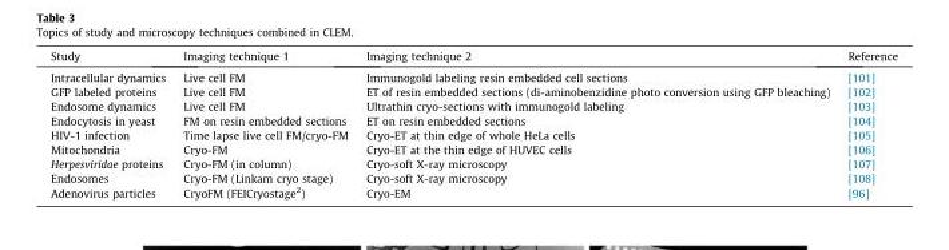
<table><thead><tr><td>Study</td><td>Imaging technique 1</td><td>Imaging technique 2</td><td>Reference</td></tr></thead><tbody><tr><td>Intracellular dynamics</td><td>Live cell FM</td><td>Immunogold labeling resin embedded cell sections</td><td>[101]</td></tr><tr><td>GFP labeled proteins</td><td>Live cell FM</td><td>ET of resin embedded sections (di-aminobenzidine photo conversion using GFP bleaching)</td><td>[102]</td></tr><tr><td>Endosome dynamics</td><td>Live cell FM</td><td>Ultrathin cryo-sections with immunogold labeling</td><td>[103]</td></tr><tr><td>Endocytosis in yeast</td><td>FM on resin embedded sections</td><td>ET on resin embedded sections</td><td>[104]</td></tr><tr><td>HIV-1 infection</td><td>Time lapse live cell FM/cryo-FM</td><td>Cryo-ET at thin edge of whole HeLa cells</td><td>[105]</td></tr><tr><td>Mitochondria</td><td>Cryo-FM</td><td>Cryo-ET at the thin edge of HUVEC cells</td><td>[106]</td></tr><tr><td>Herpesviridae proteins</td><td>Cryo-FM (in column)</td><td>Cryo-soft X-ray microscopy</td><td>[107]</td></tr><tr><td>Endosomes</td><td>Cryo-FM (Linkam cryo stage)</td><td>Cryo-soft X-ray microscopy</td><td>[108]</td></tr><tr><td>Adenovirus particles</td><td>CryoFM (FEICryostage<sup>2</sup>)</td><td>Cryo-EM</td><td>[96]</td></tr></tbody></table>